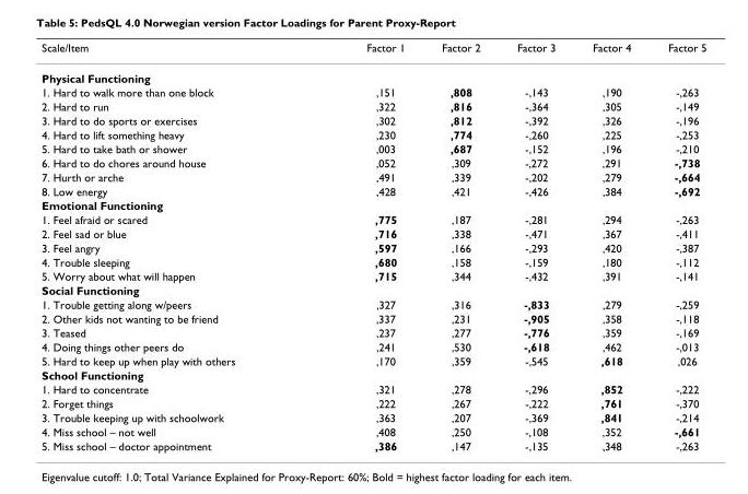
<table><thead><tr><td>Scale/Item</td><td>Factor 1</td><td>Factor 2</td><td>Factor 3</td><td>Factor 4</td><td>Factor 5</td></tr></thead><tbody><tr><td colspan="6">Physical Functioning</td></tr><tr><td>1. Hard to walk more than one block</td><td>,151</td><td>,808</td><td>-,143</td><td>,190</td><td>-,263</td></tr><tr><td>2. Hard to run</td><td>,322</td><td>,816</td><td>-,364</td><td>,305</td><td>-,149</td></tr><tr><td>3. Hard to do sports or exercises</td><td>,302</td><td>,812</td><td>-,392</td><td>,326</td><td>-,196</td></tr><tr><td>4. Hard to lift something heavy</td><td>,230</td><td>,774</td><td>-,260</td><td>,225</td><td>-,253</td></tr><tr><td>5. Hard to take bath or shower</td><td>,003</td><td>,687</td><td>-,152</td><td>,196</td><td>-,210</td></tr><tr><td>6. Hard to do chores around house</td><td>,052</td><td>,309</td><td>-,272</td><td>,291</td><td>-,738</td></tr><tr><td>7. Hurth or arche</td><td>,491</td><td>,339</td><td>-,202</td><td>,279</td><td>-,664</td></tr><tr><td>8. Low energy</td><td>,428</td><td>,421</td><td>-,426</td><td>,384</td><td>-,692</td></tr><tr><td colspan="6">Emotional Functioning</td></tr><tr><td>1. Feel afraid or scared</td><td>,775</td><td>,187</td><td>-,281</td><td>,294</td><td>-,263</td></tr><tr><td>2. Feel sad or blue</td><td>,716</td><td>,338</td><td>-,471</td><td>,367</td><td>-,411</td></tr><tr><td>3. Feel angry</td><td>,597</td><td>,166</td><td>-,293</td><td>,420</td><td>-,387</td></tr><tr><td>4. Trouble sleeping</td><td>,680</td><td>,158</td><td>-,159</td><td>,180</td><td>-,112</td></tr><tr><td>5. Worry about what will happen</td><td>,715</td><td>,344</td><td>-,432</td><td>,391</td><td>-,141</td></tr><tr><td colspan="6">Social Functioning</td></tr><tr><td>1. Trouble getting along w/peers</td><td>,327</td><td>,316</td><td>-,833</td><td>,279</td><td>-,259</td></tr><tr><td>2. Other kids not wanting to be friend</td><td>,337</td><td>,231</td><td>-,905</td><td>,358</td><td>-,118</td></tr><tr><td>3. Teased</td><td>,237</td><td>,277</td><td>-,776</td><td>,359</td><td>-,169</td></tr><tr><td>4. Doing things other peers do</td><td>,241</td><td>,530</td><td>-,618</td><td>,462</td><td>-,013</td></tr><tr><td>5. Hard to keep up when play with others</td><td>,170</td><td>,359</td><td>-,545</td><td>,618</td><td>,026</td></tr><tr><td colspan="6">School Functioning</td></tr><tr><td>1. Hard to concentrate</td><td>,321</td><td>,278</td><td>-,296</td><td>,852</td><td>-,222</td></tr><tr><td>2. Forget things</td><td>,222</td><td>,267</td><td>-,222</td><td>,761</td><td>-,370</td></tr><tr><td>3. Trouble keeping up with schoolwork</td><td>,363</td><td>,207</td><td>-,369</td><td>,841</td><td>-,214</td></tr><tr><td>4. Miss school – not well</td><td>,408</td><td>,250</td><td>-,108</td><td>,352</td><td>-,661</td></tr><tr><td>5. Miss school – doctor appointment</td><td>,386</td><td>,147</td><td>-,135</td><td>,348</td><td>-,263</td></tr></tbody></table>